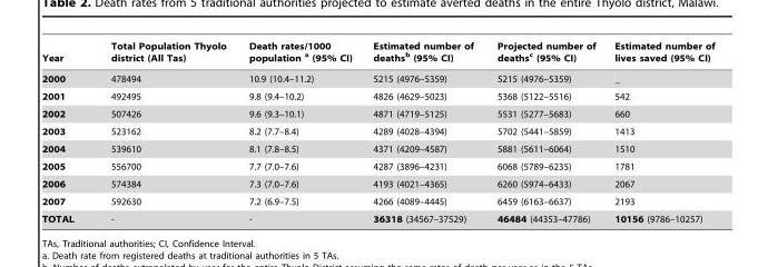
<table><thead><tr><td>Year</td><td>Total Population Thyolo district (All Tas)</td><td>Death rates/1000 population a (95% CI)</td><td>Estimated number of deaths<sup>b</sup> (95% CI)</td><td>Projected number of deaths<sup>c</sup> (95% CI)</td><td>Estimated number of lives saved (95% CI)</td></tr></thead><tbody><tr><td>2000</td><td>478494</td><td>10.9 (10.4–11.2)</td><td>5215 (4976–5359)</td><td>5215 (4976–5359)</td><td>_</td></tr><tr><td>2001</td><td>492495</td><td>9.8 (9.4–10.2)</td><td>4826 (4629–5023)</td><td>5368 (5122–5516)</td><td>542</td></tr><tr><td>2002</td><td>507426</td><td>9.6 (9.3–10.1)</td><td>4871 (4719–5125)</td><td>5531 (5277–5683)</td><td>660</td></tr><tr><td>2003</td><td>523162</td><td>8.2 (7.7–8.4)</td><td>4289 (4028–4394)</td><td>5702 (5441–5859)</td><td>1413</td></tr><tr><td>2004</td><td>539610</td><td>8.1 (7.8–8.5)</td><td>4371 (4209–4587)</td><td>5881 (5611–6064)</td><td>1510</td></tr><tr><td>2005</td><td>556700</td><td>7.7 (7.0–7.6)</td><td>4287 (3896–4231)</td><td>6068 (5789–6235)</td><td>1781</td></tr><tr><td>2006</td><td>574384</td><td>7.3 (7.0–7.6)</td><td>4193 (4021–4365)</td><td>6260 (5974–6433)</td><td>2067</td></tr><tr><td>2007</td><td>592630</td><td>7.2 (6.9–7.5)</td><td>4266 (4089–4445)</td><td>6459 (6163–6637)</td><td>2193</td></tr><tr><td>TOTAL</td><td>-</td><td>-</td><td>36318 (34567–37529)</td><td>46484 (44353–47786)</td><td>10156 (9786–10257)</td></tr></tbody></table>